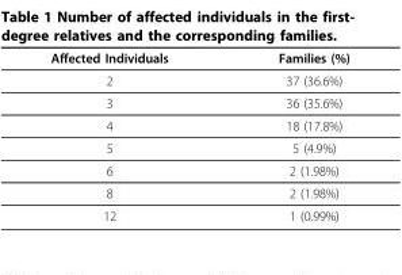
<table><thead><tr><td>Affected Individuals</td><td>Families (%)</td></tr></thead><tbody><tr><td>2</td><td>37 (36.6%)</td></tr><tr><td>3</td><td>36 (35.6%)</td></tr><tr><td>4</td><td>18 (17.8%)</td></tr><tr><td>5</td><td>5 (4.9%)</td></tr><tr><td>6</td><td>2 (1.98%)</td></tr><tr><td>8</td><td>2 (1.98%)</td></tr><tr><td>12</td><td>1 (0.99%)</td></tr></tbody></table>